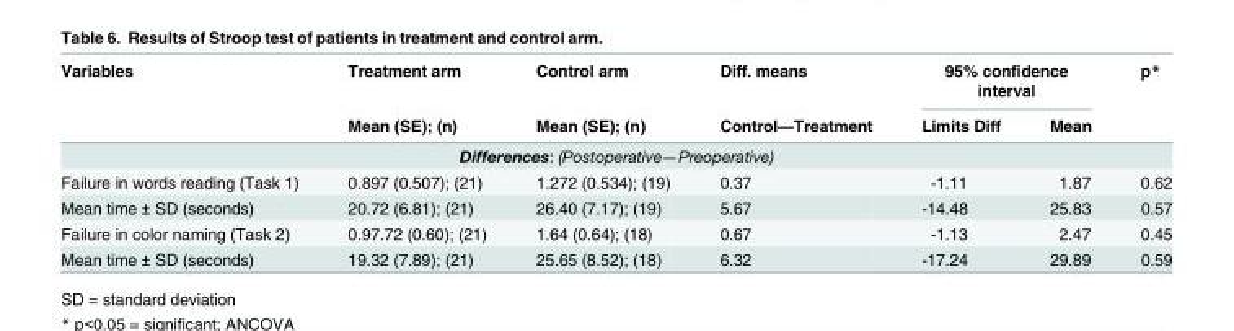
<table><thead><tr><td rowspan="2">Variables</td><td rowspan="2">Treatment arm Mean (SE); (n)</td><td rowspan="2">Control arm Mean (SE); (n)</td><td rowspan="2">Diff. means Control—Treatment</td><td colspan="2">95% confidence interval</td><td rowspan="2">p*</td></tr><tr><td>Limits Diff</td><td>Mean</td></tr></thead><tbody><tr><td colspan="7">Differences: (Postoperative—Preoperative)</td></tr><tr><td>Failure in words reading (Task 1)</td><td>0.897 (0.507); (21)</td><td>1.272 (0.534); (19)</td><td>0.37</td><td>-1.11</td><td>1.87</td><td>0.62</td></tr><tr><td>Mean time ± SD (seconds)</td><td>20.72 (6.81); (21)</td><td>26.40 (7.17); (19)</td><td>5.67</td><td>-14.48</td><td>25.83</td><td>0.57</td></tr><tr><td>Failure in color naming (Task 2)</td><td>0.97.72 (0.60); (21)</td><td>1.64 (0.64); (18)</td><td>0.67</td><td>-1.13</td><td>2.47</td><td>0.45</td></tr><tr><td>Mean time ± SD (seconds)</td><td>19.32 (7.89); (21)</td><td>25.65 (8.52); (18)</td><td>6.32</td><td>-17.24</td><td>29.89</td><td>0.59</td></tr></tbody></table>